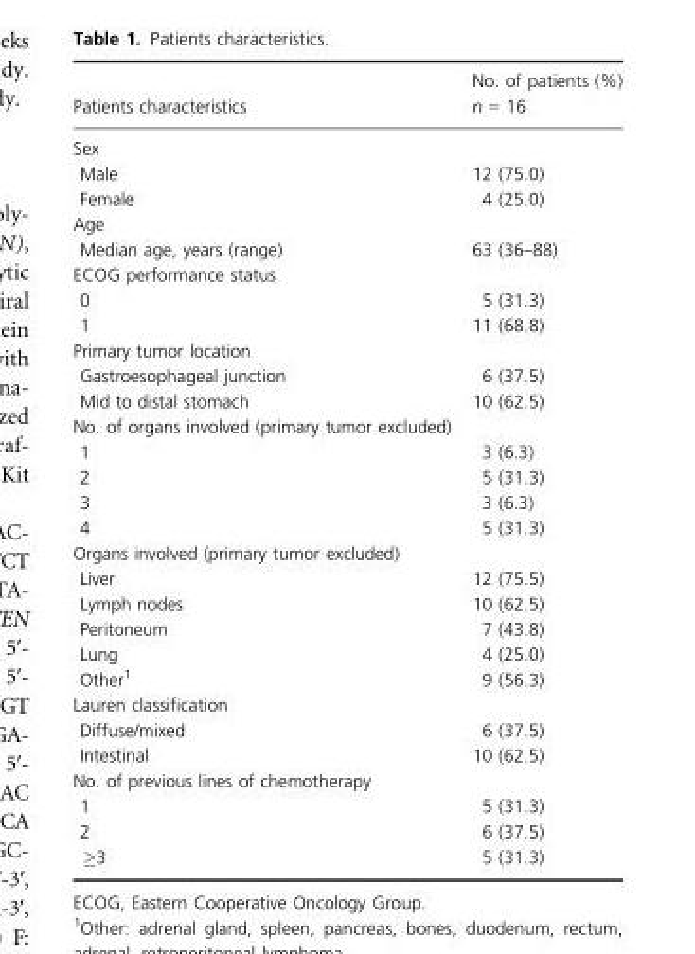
<table><thead><tr><td>Patients characteristics</td><td>No. of patients (%) n = 16</td></tr></thead><tbody><tr><td colspan="2">Sex</td></tr><tr><td>Male</td><td>12 (75.0)</td></tr><tr><td>Female</td><td>4 (25.0)</td></tr><tr><td colspan="2">Age</td></tr><tr><td>Median age, years (range)</td><td>63 (36–88)</td></tr><tr><td colspan="2">ECOG performance status</td></tr><tr><td>0</td><td>5 (31.3)</td></tr><tr><td>1</td><td>11 (68.8)</td></tr><tr><td colspan="2">Primary tumor location</td></tr><tr><td>Gastroesophageal junction</td><td>6 (37.5)</td></tr><tr><td>Mid to distal stomach</td><td>10 (62.5)</td></tr><tr><td colspan="2">No. of organs involved (primary tumor excluded)</td></tr><tr><td>1</td><td>3 (6.3)</td></tr><tr><td>2</td><td>5 (31.3)</td></tr><tr><td>3</td><td>3 (6.3)</td></tr><tr><td>4</td><td>5 (31.3)</td></tr><tr><td colspan="2">Organs involved (primary tumor excluded)</td></tr><tr><td>Liver</td><td>12 (75.5)</td></tr><tr><td>Lymph nodes</td><td>10 (62.5)</td></tr><tr><td>Peritoneum</td><td>7 (43.8)</td></tr><tr><td>Lung</td><td>4 (25.0)</td></tr><tr><td>Other<sup>1</sup></td><td>9 (56.3)</td></tr><tr><td colspan="2">Lauren classification</td></tr><tr><td>Diffuse/mixed</td><td>6 (37.5)</td></tr><tr><td>Intestinal</td><td>10 (62.5)</td></tr><tr><td colspan="2">No. of previous lines of chemotherapy</td></tr><tr><td>1</td><td>5 (31.3)</td></tr><tr><td>2</td><td>6 (37.5)</td></tr><tr><td>≥3</td><td>5 (31.3)</td></tr></tbody></table>